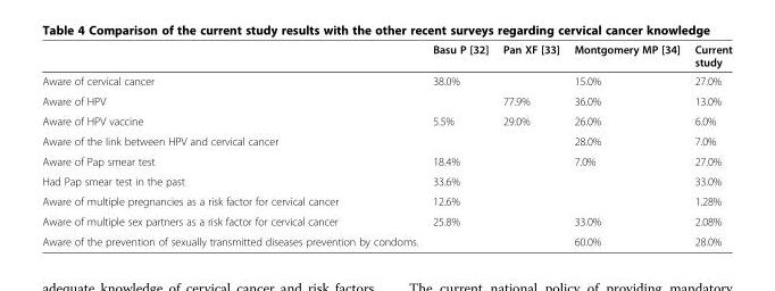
<table><thead><tr><td></td><td>Basu P [32]</td><td>Pan XF [33]</td><td>Montgomery MP [34]</td><td>Current study</td></tr></thead><tbody><tr><td>Aware of cervical cancer</td><td>38.0%</td><td></td><td>15.0%</td><td>27.0%</td></tr><tr><td>Aware of HPV</td><td></td><td>77.9%</td><td>36.0%</td><td>13.0%</td></tr><tr><td>Aware of HPV vaccine</td><td>5.5%</td><td>29.0%</td><td>26.0%</td><td>6.0%</td></tr><tr><td>Aware of the link between HPV and cervical cancer</td><td></td><td></td><td>28.0%</td><td>7.0%</td></tr><tr><td>Aware of Pap smear test</td><td>18.4%</td><td></td><td>7.0%</td><td>27.0%</td></tr><tr><td>Had Pap smear test in the past</td><td>33.6%</td><td></td><td></td><td>33.0%</td></tr><tr><td>Aware of multiple pregnancies as a risk factor for cervical cancer</td><td>12.6%</td><td></td><td></td><td>1.28%</td></tr><tr><td>Aware of multiple sex partners as a risk factor for cervical cancer</td><td>25.8%</td><td></td><td>33.0%</td><td>2.08%</td></tr><tr><td>Aware of the prevention of sexually transmitted diseases prevention by condoms.</td><td></td><td></td><td>60.0%</td><td>28.0%</td></tr></tbody></table>